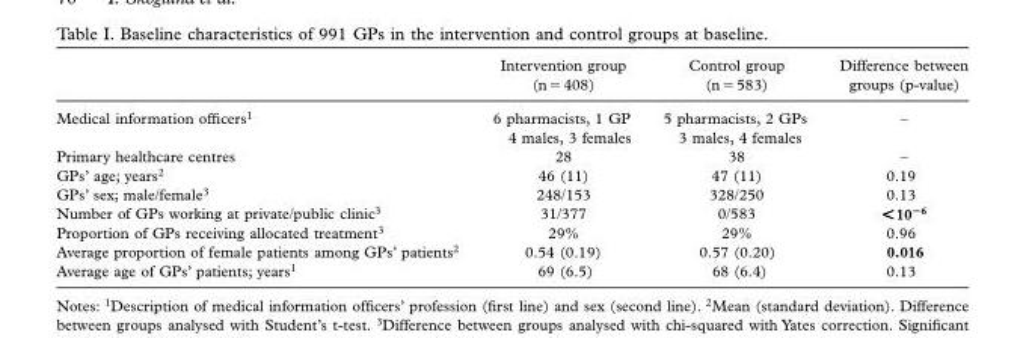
<table><thead><tr><td></td><td>Intervention group (n = 408)</td><td>Control group (n = 583)</td><td>Difference between groups (p-value)</td></tr></thead><tbody><tr><td>Medical information offi cers <sup>1</sup></td><td>6 pharmacists, 1 GP 4 males, 3 females</td><td>5 pharmacists, 2 GPs 3 males, 4 females</td><td>–</td></tr><tr><td>Primary healthcare centres</td><td>28</td><td>38</td><td>–</td></tr><tr><td>GPs ’ age; years <sup>2</sup></td><td>46 (11)</td><td>47 (11)</td><td>0.19</td></tr><tr><td>GPs ’ sex; male/female <sup>3</sup></td><td>248/153</td><td>328/250</td><td>0.13</td></tr><tr><td>Number of GPs working at private/public clinic <sup>3</sup></td><td>31/377</td><td>0/583</td><td>&lt; 10 <sup>26</sup></td></tr><tr><td>Proportion of GPs receiving allocated treatment <sup>3</sup></td><td>29%</td><td>29%</td><td>0.96</td></tr><tr><td>Average proportion of female patients among GPs ’ patients <sup>2</sup></td><td>0.54 (0.19)</td><td>0.57 (0.20)</td><td>0.016</td></tr><tr><td>Average age of GPs ’ patients; years <sup>1</sup></td><td>69 (6.5)</td><td>68 (6.4)</td><td>0.13</td></tr></tbody></table>